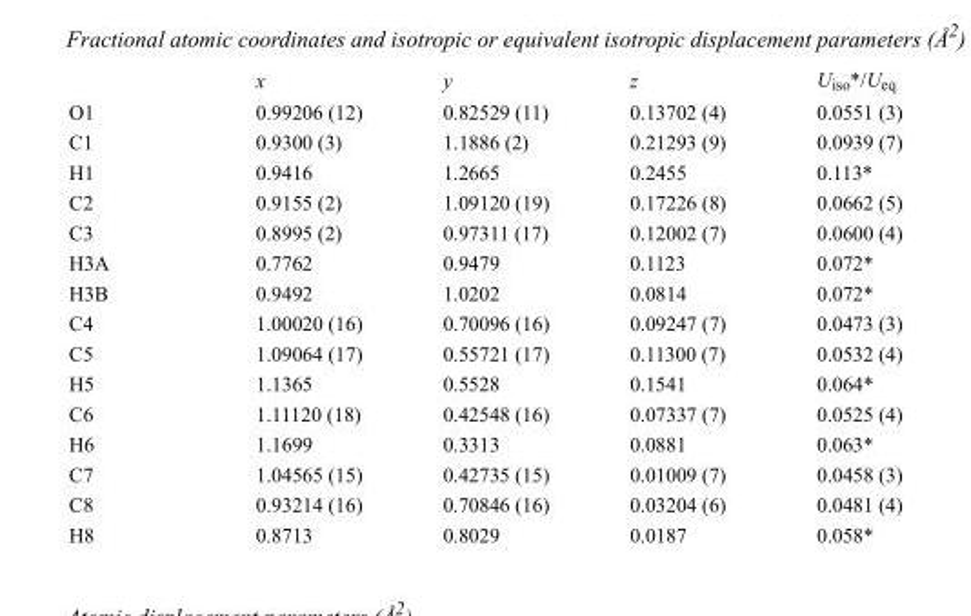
<table><thead><tr><td></td><td>x</td><td>y</td><td>z</td><td>U<sub>iso</sub>*/U<sub>eq</sub></td></tr></thead><tbody><tr><td>O1</td><td>0.99206 (12)</td><td>0.82529 (11)</td><td>0.13702 (4)</td><td>0.0551 (3)</td></tr><tr><td>C1</td><td>0.9300 (3)</td><td>1.1886 (2)</td><td>0.21293 (9)</td><td>0.0939 (7)</td></tr><tr><td>H1</td><td>0.9416</td><td>1.2665</td><td>0.2455</td><td>0.113*</td></tr><tr><td>C2</td><td>0.9155 (2)</td><td>1.09120 (19)</td><td>0.17226 (8)</td><td>0.0662 (5)</td></tr><tr><td>C3</td><td>0.8995 (2)</td><td>0.97311 (17)</td><td>0.12002 (7)</td><td>0.0600 (4)</td></tr><tr><td>H3A</td><td>0.7762</td><td>0.9479</td><td>0.1123</td><td>0.072*</td></tr><tr><td>H3B</td><td>0.9492</td><td>1.0202</td><td>0.0814</td><td>0.072*</td></tr><tr><td>C4</td><td>1.00020 (16)</td><td>0.70096 (16)</td><td>0.09247 (7)</td><td>0.0473 (3)</td></tr><tr><td>C5</td><td>1.09064 (17)</td><td>0.55721 (17)</td><td>0.11300 (7)</td><td>0.0532 (4)</td></tr><tr><td>H5</td><td>1.1365</td><td>0.5528</td><td>0.1541</td><td>0.064*</td></tr><tr><td>C6</td><td>1.11120 (18)</td><td>0.42548 (16)</td><td>0.07337 (7)</td><td>0.0525 (4)</td></tr><tr><td>H6</td><td>1.1699</td><td>0.3313</td><td>0.0881</td><td>0.063*</td></tr><tr><td>C7</td><td>1.04565 (15)</td><td>0.42735 (15)</td><td>0.01009 (7)</td><td>0.0458 (3)</td></tr><tr><td>C8</td><td>0.93214 (16)</td><td>0.70846 (16)</td><td>0.03204 (6)</td><td>0.0481 (4)</td></tr><tr><td>H8</td><td>0.8713</td><td>0.8029</td><td>0.0187</td><td>0.058*</td></tr></tbody></table>